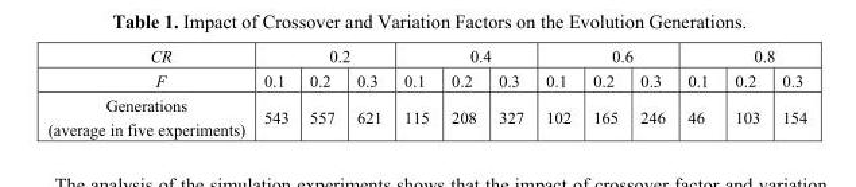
<table><tbody><tr><td>CR</td><td colspan="3">0.2</td><td colspan="3">0.4</td><td colspan="3">0.6</td><td colspan="3">0.8</td></tr><tr><td>F</td><td>0.1</td><td>0.2</td><td>0.3</td><td>0.1</td><td>0.2</td><td>0.3</td><td>0.1</td><td>0.2</td><td>0.3</td><td>0.1</td><td>0.2</td><td>0.3</td></tr><tr><td>Generations (average in five experiments)</td><td>543</td><td>557</td><td>621</td><td>115</td><td>208</td><td>327</td><td>102</td><td>165</td><td>246</td><td>46</td><td>103</td><td>154</td></tr></tbody></table>